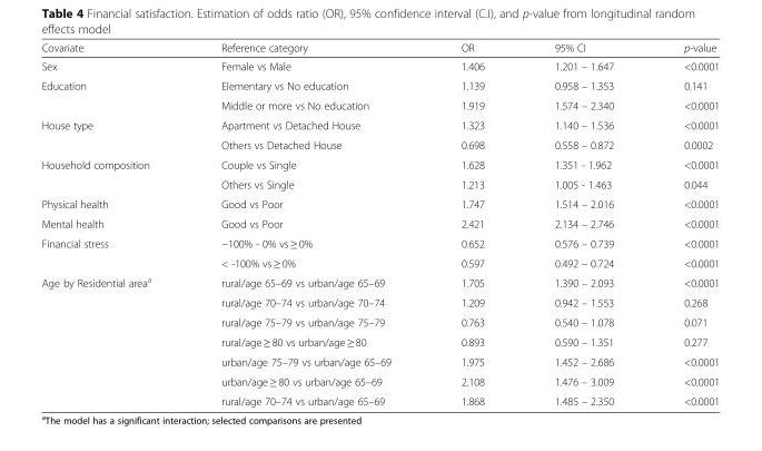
<table><thead><tr><td>Covariate</td><td>Reference category</td><td>OR</td><td>95% CI</td><td>p-value</td></tr></thead><tbody><tr><td>Sex</td><td>Female vs Male</td><td>1.406</td><td>1.201 – 1.647</td><td>&lt;0.0001</td></tr><tr><td rowspan="2">Education</td><td>Elementary vs No education</td><td>1.139</td><td>0.958 – 1.353</td><td>0.141</td></tr><tr><td>Middle or more vs No education</td><td>1.919</td><td>1.574 – 2.340</td><td>&lt;0.0001</td></tr><tr><td rowspan="2">House type</td><td>Apartment vs Detached House</td><td>1.323</td><td>1.140 – 1.536</td><td>&lt;0.0001</td></tr><tr><td>Others vs Detached House</td><td>0.698</td><td>0.558 – 0.872</td><td>0.0002</td></tr><tr><td rowspan="2">Household composition</td><td>Couple vs Single</td><td>1.628</td><td>1.351 - 1.962</td><td>&lt;0.0001</td></tr><tr><td>Others vs Single</td><td>1.213</td><td>1.005 - 1.463</td><td>0.044</td></tr><tr><td>Physical health</td><td>Good vs Poor</td><td>1.747</td><td>1.514 – 2.016</td><td>&lt;0.0001</td></tr><tr><td>Mental health</td><td>Good vs Poor</td><td>2.421</td><td>2.134 – 2.746</td><td>&lt;0.0001</td></tr><tr><td rowspan="2">Financial stress</td><td>−100% - 0% vs ≥ 0%</td><td>0.652</td><td>0.576 – 0.739</td><td>&lt;0.0001</td></tr><tr><td>&lt; -100% vs ≥ 0%</td><td>0.597</td><td>0.492 – 0.724</td><td>&lt;0.0001</td></tr><tr><td rowspan="7">Age by Residential area<sup>a</sup></td><td>rural/age 65–69 vs urban/age 65–69</td><td>1.705</td><td>1.390 – 2.093</td><td>&lt;0.0001</td></tr><tr><td>rural/age 70–74 vs urban/age 70–74</td><td>1.209</td><td>0.942 – 1.553</td><td>0.268</td></tr><tr><td>rural/age 75–79 vs urban/age 75–79</td><td>0.763</td><td>0.540 – 1.078</td><td>0.071</td></tr><tr><td>rural/age ≥ 80 vs urban/age ≥ 80</td><td>0.893</td><td>0.590 – 1.351</td><td>0.277</td></tr><tr><td>urban/age 75–79 vs urban/age 65–69</td><td>1.975</td><td>1.452 – 2.686</td><td>&lt;0.0001</td></tr><tr><td>urban/age ≥ 80 vs urban/age 65–69</td><td>2.108</td><td>1.476 – 3.009</td><td>&lt;0.0001</td></tr><tr><td>rural/age 70–74 vs urban/age 65–69</td><td>1.868</td><td>1.485 – 2.350</td><td>&lt;0.0001</td></tr></tbody></table>